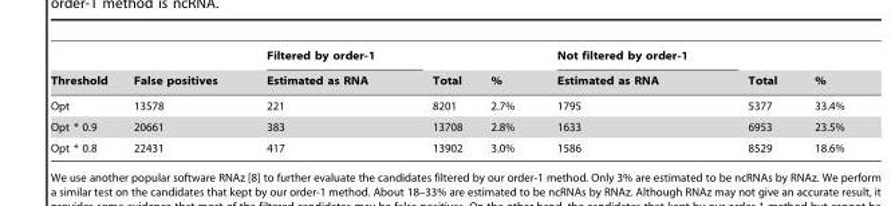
<table><thead><tr><td rowspan="2">Threshold</td><td rowspan="2">False positives</td><td rowspan="2">Filtered by order-1 Estimated as RNA</td><td rowspan="2">Total</td><td rowspan="2">%</td><td rowspan="2">Not filtered by order-1 Estimated as RNA</td><td rowspan="2">Total</td><td rowspan="2">%</td></tr><tr></tr></thead><tbody><tr><td>Opt</td><td>13578</td><td>221</td><td>8201</td><td>2.7%</td><td>1795</td><td>5377</td><td>33.4%</td></tr><tr><td>Opt * 0.9</td><td>20661</td><td>383</td><td>13708</td><td>2.8%</td><td>1633</td><td>6953</td><td>23.5%</td></tr><tr><td>Opt * 0.8</td><td>22431</td><td>417</td><td>13902</td><td>3.0%</td><td>1586</td><td>8529</td><td>18.6%</td></tr></tbody></table>